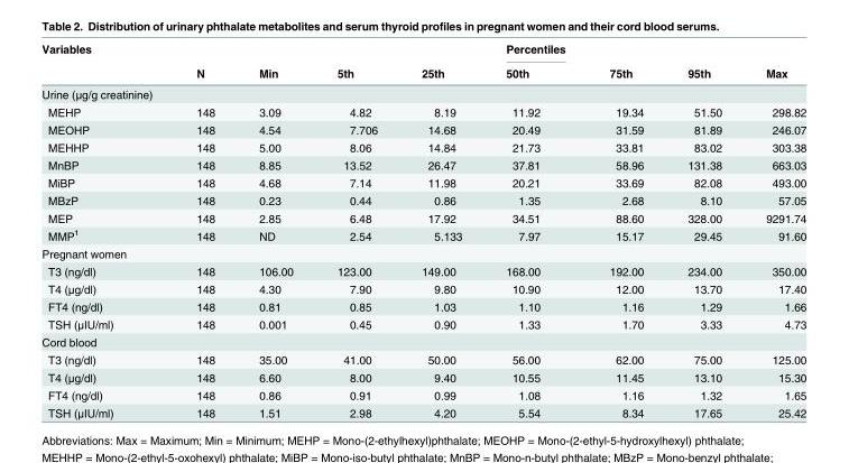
<table><thead><tr><td rowspan="2">Variables</td><td rowspan="2">N</td><td rowspan="2">Min</td><td rowspan="2">5th</td><td rowspan="2">25th</td><td rowspan="2">Percentiles 50th</td><td rowspan="2">75th</td><td rowspan="2">95th</td><td rowspan="2">Max</td></tr><tr></tr></thead><tbody><tr><td colspan="9">Urine (μg/g creatinine)</td></tr><tr><td>MEHP</td><td>148</td><td>3.09</td><td>4.82</td><td>8.19</td><td>11.92</td><td>19.34</td><td>51.50</td><td>298.82</td></tr><tr><td>MEOHP</td><td>148</td><td>4.54</td><td>7.706</td><td>14.68</td><td>20.49</td><td>31.59</td><td>81.89</td><td>246.07</td></tr><tr><td>MEHHP</td><td>148</td><td>5.00</td><td>8.06</td><td>14.84</td><td>21.73</td><td>33.81</td><td>83.02</td><td>303.38</td></tr><tr><td>MnBP</td><td>148</td><td>8.85</td><td>13.52</td><td>26.47</td><td>37.81</td><td>58.96</td><td>131.38</td><td>663.03</td></tr><tr><td>MiBP</td><td>148</td><td>4.68</td><td>7.14</td><td>11.98</td><td>20.21</td><td>33.69</td><td>82.08</td><td>493.00</td></tr><tr><td>MBzP</td><td>148</td><td>0.23</td><td>0.44</td><td>0.86</td><td>1.35</td><td>2.68</td><td>8.10</td><td>57.05</td></tr><tr><td>MEP</td><td>148</td><td>2.85</td><td>6.48</td><td>17.92</td><td>34.51</td><td>88.60</td><td>328.00</td><td>9291.74</td></tr><tr><td>MMP<sup>1</sup></td><td>148</td><td>ND</td><td>2.54</td><td>5.133</td><td>7.97</td><td>15.17</td><td>29.45</td><td>91.60</td></tr><tr><td colspan="9">Pregnant women</td></tr><tr><td>T3 (ng/dl)</td><td>148</td><td>106.00</td><td>123.00</td><td>149.00</td><td>168.00</td><td>192.00</td><td>234.00</td><td>350.00</td></tr><tr><td>T4 (μg/dl)</td><td>148</td><td>4.30</td><td>7.90</td><td>9.80</td><td>10.90</td><td>12.00</td><td>13.70</td><td>17.40</td></tr><tr><td>FT4 (ng/dl)</td><td>148</td><td>0.81</td><td>0.85</td><td>1.03</td><td>1.10</td><td>1.16</td><td>1.29</td><td>1.66</td></tr><tr><td>TSH (μIU/ml)</td><td>148</td><td>0.001</td><td>0.45</td><td>0.90</td><td>1.33</td><td>1.70</td><td>3.33</td><td>4.73</td></tr><tr><td colspan="9">Cord blood</td></tr><tr><td>T3 (ng/dl)</td><td>148</td><td>35.00</td><td>41.00</td><td>50.00</td><td>56.00</td><td>62.00</td><td>75.00</td><td>125.00</td></tr><tr><td>T4 (μg/dl)</td><td>148</td><td>6.60</td><td>8.00</td><td>9.40</td><td>10.55</td><td>11.45</td><td>13.10</td><td>15.30</td></tr><tr><td>FT4 (ng/dl)</td><td>148</td><td>0.86</td><td>0.91</td><td>0.99</td><td>1.08</td><td>1.16</td><td>1.32</td><td>1.65</td></tr><tr><td>TSH (μIU/ml)</td><td>148</td><td>1.51</td><td>2.98</td><td>4.20</td><td>5.54</td><td>8.34</td><td>17.65</td><td>25.42</td></tr></tbody></table>